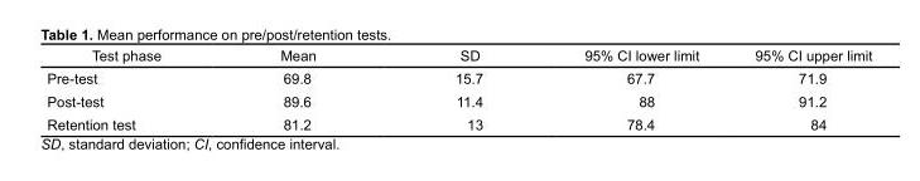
<table><thead><tr><td>Test phase</td><td>Mean</td><td>SD</td><td>95% CI lower limit</td><td>95% CI upper limit</td></tr></thead><tbody><tr><td>Pre-test</td><td>69.8</td><td>15.7</td><td>67.7</td><td>71.9</td></tr><tr><td>Post-test</td><td>89.6</td><td>11.4</td><td>88</td><td>91.2</td></tr><tr><td>Retention test</td><td>81.2</td><td>13</td><td>78.4</td><td>84</td></tr></tbody></table>